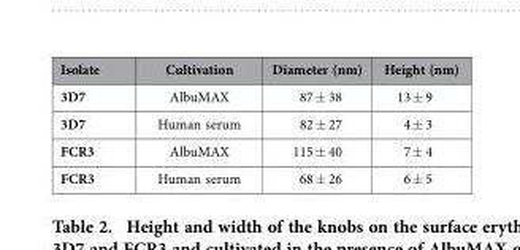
<table><thead><tr><td>Isolate</td><td>Cultivation</td><td>Diameter (nm)</td><td>Height (nm)</td></tr></thead><tbody><tr><td>3D7</td><td>AlbuMAX</td><td>87 ± 38</td><td>13 ± 9</td></tr><tr><td>3D7</td><td>Human serum</td><td>82 ± 27</td><td>4 ± 3</td></tr><tr><td>FCR3</td><td>AlbuMAX</td><td>115 ± 40</td><td>7 ± 4</td></tr><tr><td>FCR3</td><td>Human serum</td><td>68 ± 26</td><td>6 ± 5</td></tr></tbody></table>